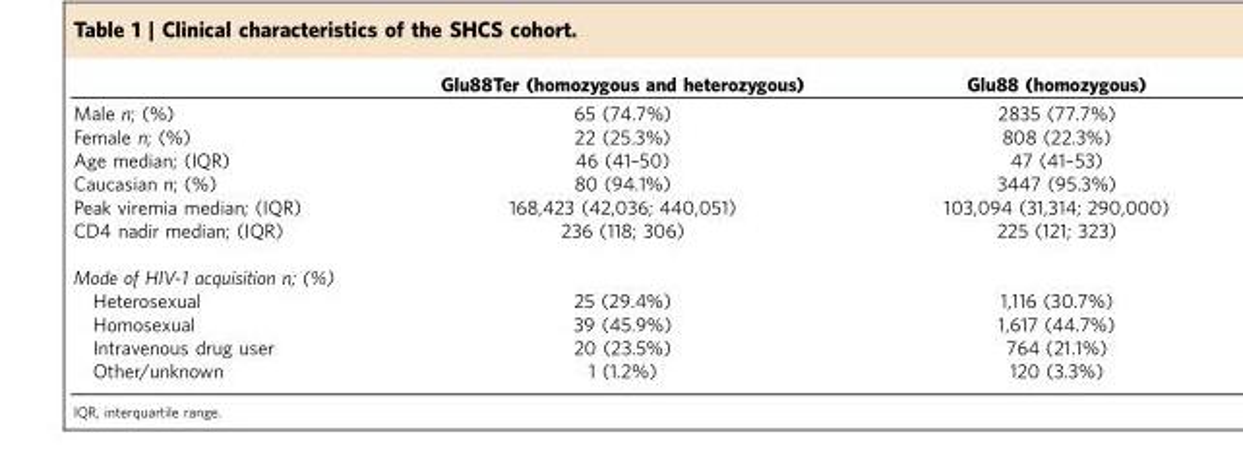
<table><thead><tr><td></td><td>Glu88Ter (homozygous and heterozygous)</td><td>Glu88 (homozygous)</td></tr></thead><tbody><tr><td>Male n; (%)</td><td>65 (74.7%)</td><td>2835 (77.7%)</td></tr><tr><td>Female n; (%)</td><td>22 (25.3%)</td><td>808 (22.3%)</td></tr><tr><td>Age median; (IQR)</td><td>46 (41–50)</td><td>47 (41–53)</td></tr><tr><td>Caucasian n; (%)</td><td>80 (94.1%)</td><td>3447 (95.3%)</td></tr><tr><td>Peak viremia median; (IQR)</td><td>168,423 (42,036; 440,051)</td><td>103,094 (31,314; 290,000)</td></tr><tr><td>CD4 nadir median; (IQR)</td><td>236 (118; 306)</td><td>225 (121; 323)</td></tr><tr><td colspan="3">Mode of HIV-1 acquisition n; (%)</td></tr><tr><td>Heterosexual</td><td>25 (29.4%)</td><td>1,116 (30.7%)</td></tr><tr><td>Homosexual</td><td>39 (45.9%)</td><td>1,617 (44.7%)</td></tr><tr><td>Intravenous drug user</td><td>20 (23.5%)</td><td>764 (21.1%)</td></tr><tr><td>Other/unknown</td><td>1 (1.2%)</td><td>120 (3.3%)</td></tr></tbody></table>